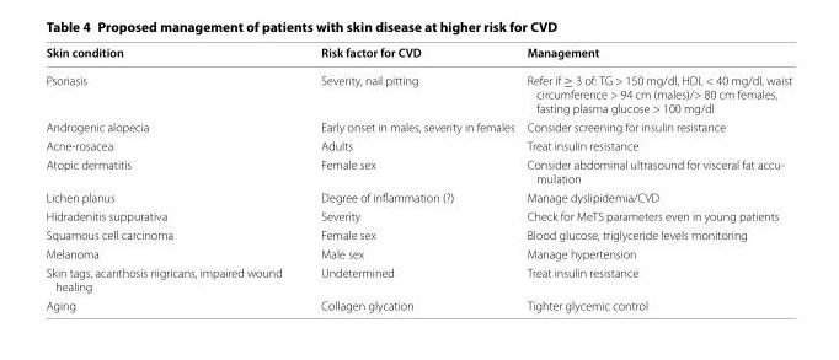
<table><thead><tr><td>Skin condition</td><td>Risk factor for CVD</td><td>Management</td></tr></thead><tbody><tr><td>Psoriasis</td><td>Severity, nail pitting</td><td>Refer if ≥ 3 of: TG &gt; 150 mg/dl, HDL &lt; 40 mg/dl, waist circumference &gt; 94 cm (males)/&gt; 80 cm females, fasting plasma glucose &gt; 100 mg/dl</td></tr><tr><td>Androgenic alopecia</td><td>Early onset in males, severity in females</td><td>Consider screening for insulin resistance</td></tr><tr><td>Acne‑rosacea</td><td>Adults</td><td>Treat insulin resistance</td></tr><tr><td>Atopic dermatitis</td><td>Female sex</td><td>Consider abdominal ultrasound for visceral fat accu‑ mulation</td></tr><tr><td>Lichen planus</td><td>Degree of inflammation (?)</td><td>Manage dyslipidemia/CVD</td></tr><tr><td>Hidradenitis suppurativa</td><td>Severity</td><td>Check for MeTS parameters even in young patients</td></tr><tr><td>Squamous cell carcinoma</td><td>Female sex</td><td>Blood glucose, triglyceride levels monitoring</td></tr><tr><td>Melanoma</td><td>Male sex</td><td>Manage hypertension</td></tr><tr><td>Skin tags, acanthosis nigricans, impaired wound healing</td><td>Undetermined</td><td>Treat insulin resistance</td></tr><tr><td>Aging</td><td>Collagen glycation</td><td>Tighter glycemic control</td></tr></tbody></table>